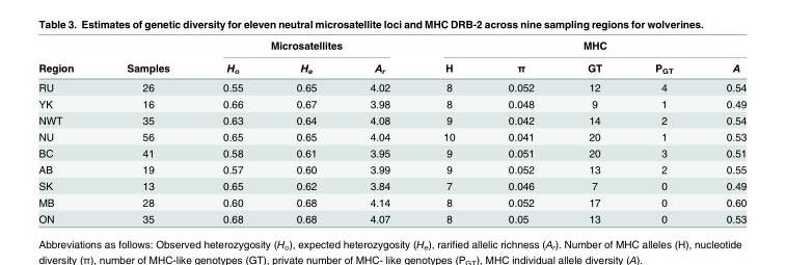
<table><thead><tr><td rowspan="2">Region</td><td rowspan="2">Samples</td><td colspan="3">Microsatellites</td><td colspan="5">MHC</td></tr><tr><td>H<sub>o</sub></td><td>H<sub>e</sub></td><td>A<sub>r</sub></td><td>H</td><td>π</td><td>GT</td><td>P<sub>GT</sub></td><td>A</td></tr></thead><tbody><tr><td>RU</td><td>26</td><td>0.55</td><td>0.65</td><td>4.02</td><td>8</td><td>0.052</td><td>12</td><td>4</td><td>0.54</td></tr><tr><td>YK</td><td>16</td><td>0.66</td><td>0.67</td><td>3.98</td><td>8</td><td>0.048</td><td>9</td><td>1</td><td>0.49</td></tr><tr><td>NWT</td><td>35</td><td>0.63</td><td>0.64</td><td>4.08</td><td>9</td><td>0.042</td><td>14</td><td>2</td><td>0.54</td></tr><tr><td>NU</td><td>56</td><td>0.65</td><td>0.65</td><td>4.04</td><td>10</td><td>0.041</td><td>20</td><td>1</td><td>0.53</td></tr><tr><td>BC</td><td>41</td><td>0.58</td><td>0.61</td><td>3.95</td><td>9</td><td>0.051</td><td>20</td><td>3</td><td>0.51</td></tr><tr><td>AB</td><td>19</td><td>0.57</td><td>0.60</td><td>3.99</td><td>9</td><td>0.052</td><td>13</td><td>2</td><td>0.55</td></tr><tr><td>SK</td><td>13</td><td>0.65</td><td>0.62</td><td>3.84</td><td>7</td><td>0.046</td><td>7</td><td>0</td><td>0.49</td></tr><tr><td>MB</td><td>28</td><td>0.60</td><td>0.68</td><td>4.14</td><td>8</td><td>0.052</td><td>17</td><td>0</td><td>0.60</td></tr><tr><td>ON</td><td>35</td><td>0.68</td><td>0.68</td><td>4.07</td><td>8</td><td>0.05</td><td>13</td><td>0</td><td>0.53</td></tr></tbody></table>